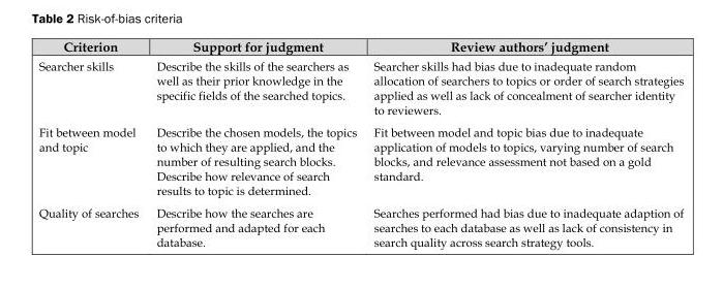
<table><thead><tr><td>Criterion</td><td>Support for judgment</td><td>Review authors’ judgment</td></tr></thead><tbody><tr><td>Searcher skills</td><td>Describe the skills of the searchers as well as their prior knowledge in the specific fields of the searched topics.</td><td>Searcher skills had bias due to inadequate random allocation of searchers to topics or order of search strategies applied as well as lack of concealment of searcher identity to reviewers.</td></tr><tr><td>Fit between model and topic</td><td>Describe the chosen models, the topics to which they are applied, and the number of resulting search blocks. Describe how relevance of search results to topic is determined.</td><td>Fit between model and topic bias due to inadequate application of models to topics, varying number of search blocks, and relevance assessment not based on a gold standard.</td></tr><tr><td>Quality of searches</td><td>Describe how the searches are performed and adapted for each database.</td><td>Searches performed had bias due to inadequate adaption of searches to each database as well as lack of consistency in search quality across search strategy tools.</td></tr></tbody></table>